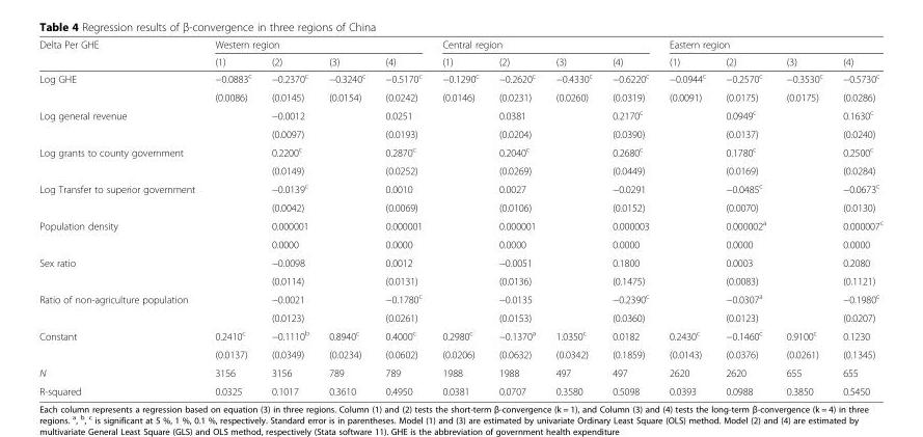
<table><thead><tr><td rowspan="2">Delta Per GHE</td><td colspan="4">Western region</td><td colspan="4">Central region</td><td colspan="4">Eastern region</td></tr><tr><td>(1)</td><td>(2)</td><td>(3)</td><td>(4)</td><td>(1)</td><td>(2)</td><td>(3)</td><td>(4)</td><td>(1)</td><td>(2)</td><td>(3)</td><td>(4)</td></tr></thead><tbody><tr><td rowspan="2">Log GHE</td><td>−0.0883<sup>c</sup></td><td>−0.2370<sup>c</sup></td><td>−0.3240<sup>c</sup></td><td>−0.5170<sup>c</sup></td><td>−0.1290<sup>c</sup></td><td>−0.2620<sup>c</sup></td><td>−0.4330<sup>c</sup></td><td>−0.6220<sup>c</sup></td><td>−0.0944<sup>c</sup></td><td>−0.2570<sup>c</sup></td><td>−0.3530<sup>c</sup></td><td>−0.5730<sup>c</sup></td></tr><tr><td>(0.0086)</td><td>(0.0145)</td><td>(0.0154)</td><td>(0.0242)</td><td>(0.0146)</td><td>(0.0231)</td><td>(0.0260)</td><td>(0.0319)</td><td>(0.0091)</td><td>(0.0175)</td><td>(0.0175)</td><td>(0.0286)</td></tr><tr><td rowspan="2">Log general revenue</td><td></td><td>−0.0012</td><td></td><td>0.0251</td><td></td><td>0.0381</td><td></td><td>0.2170<sup>c</sup></td><td></td><td>0.0949<sup>c</sup></td><td></td><td>0.1630<sup>c</sup></td></tr><tr><td></td><td>(0.0097)</td><td></td><td>(0.0193)</td><td></td><td>(0.0204)</td><td></td><td>(0.0390)</td><td></td><td>(0.0137)</td><td></td><td>(0.0240)</td></tr><tr><td rowspan="2">Log grants to county government</td><td></td><td>0.2200<sup>c</sup></td><td></td><td>0.2870<sup>c</sup></td><td></td><td>0.2040<sup>c</sup></td><td></td><td>0.2680<sup>c</sup></td><td></td><td>0.1780<sup>c</sup></td><td></td><td>0.2500<sup>c</sup></td></tr><tr><td></td><td>(0.0149)</td><td></td><td>(0.0252)</td><td></td><td>(0.0269)</td><td></td><td>(0.0449)</td><td></td><td>(0.0169)</td><td></td><td>(0.0284)</td></tr><tr><td rowspan="2">Log Transfer to superior government</td><td></td><td>−0.0139<sup>c</sup></td><td></td><td>0.0010</td><td></td><td>0.0027</td><td></td><td>−0.0291</td><td></td><td>−0.0485<sup>c</sup></td><td></td><td>−0.0673<sup>c</sup></td></tr><tr><td></td><td>(0.0042)</td><td></td><td>(0.0069)</td><td></td><td>(0.0106)</td><td></td><td>(0.0152)</td><td></td><td>(0.0070)</td><td></td><td>(0.0130)</td></tr><tr><td rowspan="2">Population density</td><td></td><td>0.000001</td><td></td><td>0.000001</td><td></td><td>0.000001</td><td></td><td>0.000003</td><td></td><td>0.000002<sup>a</sup></td><td></td><td>0.000007<sup>c</sup></td></tr><tr><td></td><td>0.0000</td><td></td><td>0.0000</td><td></td><td>0.0000</td><td></td><td>0.0000</td><td></td><td>0.0000</td><td></td><td>0.0000</td></tr><tr><td rowspan="2">Sex ratio</td><td></td><td>−0.0098</td><td></td><td>0.0012</td><td></td><td>−0.0051</td><td></td><td>0.1800</td><td></td><td>0.0003</td><td></td><td>0.2080</td></tr><tr><td></td><td>(0.0114)</td><td></td><td>(0.0131)</td><td></td><td>(0.0136)</td><td></td><td>(0.1475)</td><td></td><td>(0.0083)</td><td></td><td>(0.1121)</td></tr><tr><td rowspan="2">Ratio of non-agriculture population</td><td></td><td>−0.0021</td><td></td><td>−0.1780<sup>c</sup></td><td></td><td>−0.0135</td><td></td><td>−0.2390<sup>c</sup></td><td></td><td>−0.0307<sup>a</sup></td><td></td><td>−0.1980<sup>c</sup></td></tr><tr><td></td><td>(0.0123)</td><td></td><td>(0.0261)</td><td></td><td>(0.0153)</td><td></td><td>(0.0360)</td><td></td><td>(0.0123)</td><td></td><td>(0.0207)</td></tr><tr><td rowspan="2">Constant</td><td>0.2410<sup>c</sup></td><td>−0.1110<sup>b</sup></td><td>0.8940<sup>c</sup></td><td>0.4000<sup>c</sup></td><td>0.2980<sup>c</sup></td><td>−0.1370<sup>a</sup></td><td>1.0350<sup>c</sup></td><td>0.0182</td><td>0.2430<sup>c</sup></td><td>−0.1460<sup>c</sup></td><td>0.9100<sup>c</sup></td><td>0.1230</td></tr><tr><td>(0.0137)</td><td>(0.0349)</td><td>(0.0234)</td><td>(0.0602)</td><td>(0.0206)</td><td>(0.0632)</td><td>(0.0342)</td><td>(0.1859)</td><td>(0.0143)</td><td>(0.0376)</td><td>(0.0261)</td><td>(0.1345)</td></tr><tr><td>N</td><td>3156</td><td>3156</td><td>789</td><td>789</td><td>1988</td><td>1988</td><td>497</td><td>497</td><td>2620</td><td>2620</td><td>655</td><td>655</td></tr><tr><td>R-squared</td><td>0.0325</td><td>0.1017</td><td>0.3610</td><td>0.4950</td><td>0.0381</td><td>0.0707</td><td>0.3580</td><td>0.5098</td><td>0.0393</td><td>0.0988</td><td>0.3850</td><td>0.5450</td></tr></tbody></table>